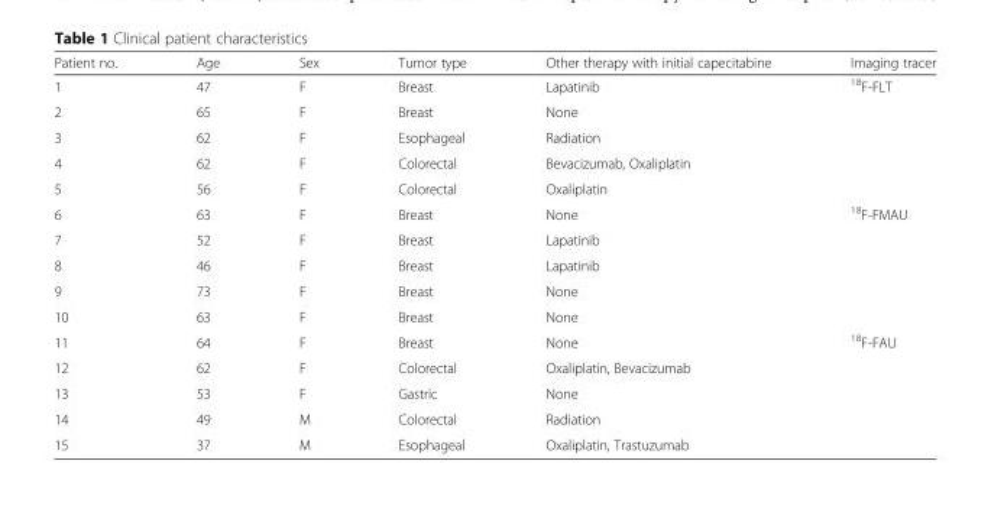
<table><thead><tr><td>Patient no.</td><td>Age</td><td>Sex</td><td>Tumor type</td><td>Other therapy with initial capecitabine</td><td>Imaging tracer</td></tr></thead><tbody><tr><td>1</td><td>47</td><td>F</td><td>Breast</td><td>Lapatinib</td><td rowspan="5"><sup>18</sup>F-FLT</td></tr><tr><td>2</td><td>65</td><td>F</td><td>Breast</td><td>None</td></tr><tr><td>3</td><td>62</td><td>F</td><td>Esophageal</td><td>Radiation</td></tr><tr><td>4</td><td>62</td><td>F</td><td>Colorectal</td><td>Bevacizumab, Oxaliplatin</td></tr><tr><td>5</td><td>56</td><td>F</td><td>Colorectal</td><td>Oxaliplatin</td></tr><tr><td>6</td><td>63</td><td>F</td><td>Breast</td><td>None</td><td rowspan="5"><sup>18</sup>F-FMAU</td></tr><tr><td>7</td><td>52</td><td>F</td><td>Breast</td><td>Lapatinib</td></tr><tr><td>8</td><td>46</td><td>F</td><td>Breast</td><td>Lapatinib</td></tr><tr><td>9</td><td>73</td><td>F</td><td>Breast</td><td>None</td></tr><tr><td>10</td><td>63</td><td>F</td><td>Breast</td><td>None</td></tr><tr><td>11</td><td>64</td><td>F</td><td>Breast</td><td>None</td><td rowspan="5"><sup>18</sup>F-FAU</td></tr><tr><td>12</td><td>62</td><td>F</td><td>Colorectal</td><td>Oxaliplatin, Bevacizumab</td></tr><tr><td>13</td><td>53</td><td>F</td><td>Gastric</td><td>None</td></tr><tr><td>14</td><td>49</td><td>M</td><td>Colorectal</td><td>Radiation</td></tr><tr><td>15</td><td>37</td><td>M</td><td>Esophageal</td><td>Oxaliplatin, Trastuzumab</td></tr></tbody></table>